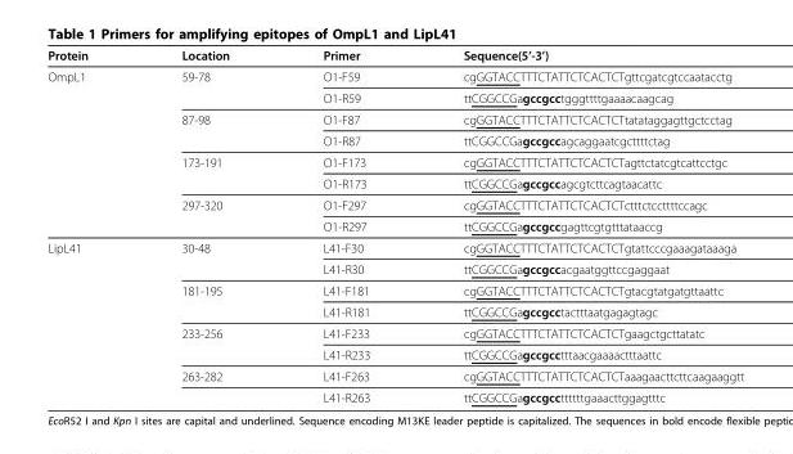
<table><thead><tr><td>Protein</td><td>Location</td><td>Primer</td><td>Sequence(5’-3’)</td></tr></thead><tbody><tr><td rowspan="8">OmpL1</td><td>59-78</td><td>O1-F59</td><td>cgGGTACCTTTCTATTCTCACTCTgttcgatcgtccaatacctg</td></tr><tr><td></td><td>O1-R59</td><td>ttCGGCCGagccgcctgggttttgaaaacaagcag</td></tr><tr><td>87-98</td><td>O1-F87</td><td>cgGGTACCTTTCTATTCTCACTCTtatataggagttgctcctag</td></tr><tr><td></td><td>O1-R87</td><td>ttCGGCCGagccgccagcaggaatcgcttttctag</td></tr><tr><td>173-191</td><td>O1-F173</td><td>cgGGTACCTTTCTATTCTCACTCTagttctatcgtcattcctgc</td></tr><tr><td></td><td>O1-R173</td><td>ttCGGCCGagccgccagcgtcttcagtaacattc</td></tr><tr><td>297-320</td><td>O1-F297</td><td>cgGGTACCTTTCTATTCTCACTCTctttctccttttccagc</td></tr><tr><td></td><td>O1-R297</td><td>ttCGGCCGagccgccgagttcgtgtttataaccg</td></tr><tr><td rowspan="8">LipL41</td><td>30-48</td><td>L41-F30</td><td>cgGGTACCTTTCTATTCTCACTCTgtattcccgaaagataaaga</td></tr><tr><td></td><td>L41-R30</td><td>ttCGGCCGagccgccacgaatggttccgaggaat</td></tr><tr><td>181-195</td><td>L41-F181</td><td>cgGGTACCTTTCTATTCTCACTCTgtacgtatgatgttaattc</td></tr><tr><td></td><td>L41-R181</td><td>ttCGGCCGagccgcctactttaatgagagtagc</td></tr><tr><td>233-256</td><td>L41-F233</td><td>cgGGTACCTTTCTATTCTCACTCTgaagctgcttatatc</td></tr><tr><td></td><td>L41-R233</td><td>ttCGGCCGagccgcctttaacgaaaactttaattc</td></tr><tr><td>263-282</td><td>L41-F263</td><td>cgGGTACCTTTCTATTCTCACTCTaaagaacttcttcaagaaggtt</td></tr><tr><td></td><td>L41-R263</td><td>ttCGGCCGagccgccttttttgaaacttggagtttc</td></tr></tbody></table>